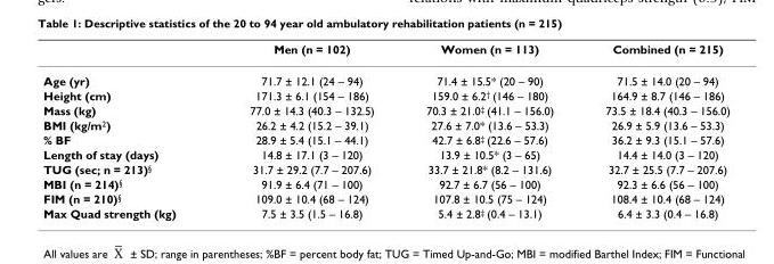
<table><thead><tr><td></td><td>Men (n = 102)</td><td>Women (n = 113)</td><td>Combined (n = 215)</td></tr></thead><tbody><tr><td>Age (yr)</td><td>71.7 ± 12.1 (24 – 94)</td><td>71.4 ± 15.5* (20 – 90)</td><td>71.5 ± 14.0 (20 – 94)</td></tr><tr><td>Height (cm)</td><td>171.3 ± 6.1 (154 – 186)</td><td>159.0 ± 6.2<sup>†</sup> (146 – 180)</td><td>164.9 ± 8.7 (146 – 186)</td></tr><tr><td>Mass (kg)</td><td>77.0 ± 14.3 (40.3 – 132.5)</td><td>70.3 ± 21.0<sup>‡</sup> (41.1 – 156.0)</td><td>73.5 ± 18.4 (40.3 – 156.0)</td></tr><tr><td>BMI (kg/m<sup>2</sup>)</td><td>26.2 ± 4.2 (15.2 – 39.1)</td><td>27.6 ± 7.0* (13.6 – 53.3)</td><td>26.9 ± 5.9 (13.6 – 53.3)</td></tr><tr><td>% BF</td><td>28.9 ± 5.4 (15.1 – 44.1)</td><td>42.7 ± 6.8<sup>‡</sup> (22.6 – 57.6)</td><td>36.2 ± 9.3 (15.1 – 57.6)</td></tr><tr><td>Length of stay (days)</td><td>14.8 ± 17.1 (3 – 120)</td><td>13.9 ± 10.5* (3 – 65)</td><td>14.4 ± 14.0 (3 – 120)</td></tr><tr><td>TUG (sec; n = 213)<sup>§</sup></td><td>31.7 ± 29.2 (7.7 – 207.6)</td><td>33.7 ± 21.8* (8.2 – 131.6)</td><td>32.7 ± 25.5 (7.7 – 207.6)</td></tr><tr><td>MBI (n = 214)<sup>§</sup></td><td>91.9 ± 6.4 (71 – 100)</td><td>92.7 ± 6.7 (56 – 100)</td><td>92.3 ± 6.6 (56 – 100)</td></tr><tr><td>FIM (n = 210)<sup>§</sup></td><td>109.0 ± 10.4 (68 – 124)</td><td>107.8 ± 10.5 (75 – 124)</td><td>108.4 ± 10.4 (68 – 124)</td></tr><tr><td>Max Quad strength (kg)</td><td>7.5 ± 3.5 (1.5 – 16.8)</td><td>5.4 ± 2.8<sup>‡</sup> (0.4 – 13.1)</td><td>6.4 ± 3.3 (0.4 – 16.8)</td></tr></tbody></table>